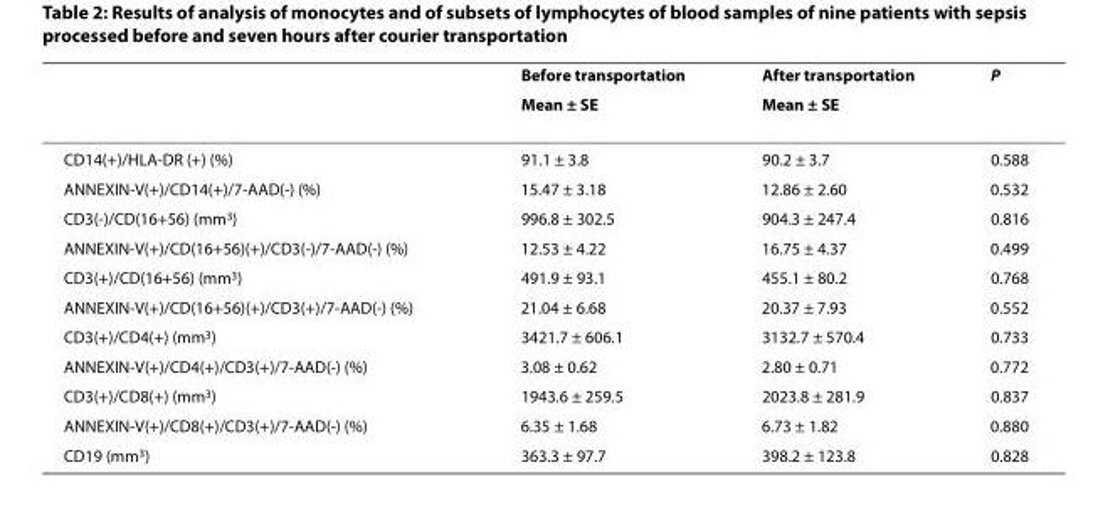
<table><thead><tr><td rowspan="2"></td><td rowspan="2">Before transportation Mean ± SE</td><td rowspan="2">After transportation Mean ± SE</td><td rowspan="2">P</td></tr><tr></tr></thead><tbody><tr><td>CD14(+)/HLA-DR (+) (%)</td><td>91.1 ± 3.8</td><td>90.2 ± 3.7</td><td>0.588</td></tr><tr><td>ANNEXIN-V(+)/CD14(+)/7-AAD(-) (%)</td><td>15.47 ± 3.18</td><td>12.86 ± 2.60</td><td>0.532</td></tr><tr><td>CD3(-)/CD(16+56) (mm<sup>3</sup>)</td><td>996.8 ± 302.5</td><td>904.3 ± 247.4</td><td>0.816</td></tr><tr><td>ANNEXIN-V(+)/CD(16+56)(+)/CD3(-)/7-AAD(-) (%)</td><td>12.53 ± 4.22</td><td>16.75 ± 4.37</td><td>0.499</td></tr><tr><td>CD3(+)/CD(16+56) (mm<sup>3</sup>)</td><td>491.9 ± 93.1</td><td>455.1 ± 80.2</td><td>0.768</td></tr><tr><td>ANNEXIN-V(+)/CD(16+56)(+)/CD3(+)/7-AAD(-) (%)</td><td>21.04 ± 6.68</td><td>20.37 ± 7.93</td><td>0.552</td></tr><tr><td>CD3(+)/CD4(+) (mm<sup>3</sup>)</td><td>3421.7 ± 606.1</td><td>3132.7 ± 570.4</td><td>0.733</td></tr><tr><td>ANNEXIN-V(+)/CD4(+)/CD3(+)/7-AAD(-) (%)</td><td>3.08 ± 0.62</td><td>2.80 ± 0.71</td><td>0.772</td></tr><tr><td>CD3(+)/CD8(+) (mm<sup>3</sup>)</td><td>1943.6 ± 259.5</td><td>2023.8 ± 281.9</td><td>0.837</td></tr><tr><td>ANNEXIN-V(+)/CD8(+)/CD3(+)/7-AAD(-) (%)</td><td>6.35 ± 1.68</td><td>6.73 ± 1.82</td><td>0.880</td></tr><tr><td>CD19 (mm<sup>3</sup>)</td><td>363.3 ± 97.7</td><td>398.2 ± 123.8</td><td>0.828</td></tr></tbody></table>